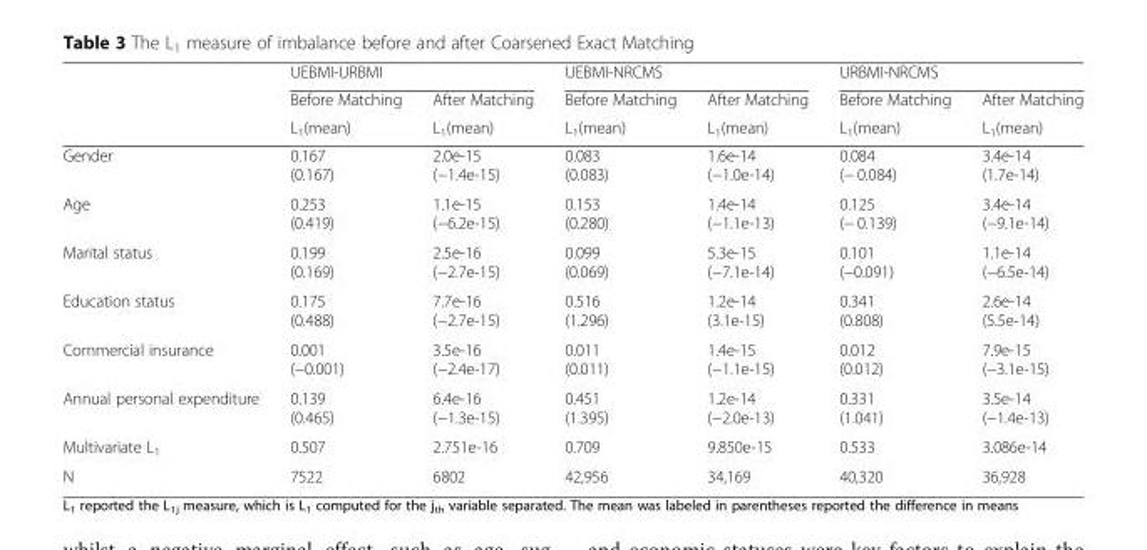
<table><thead><tr><td rowspan="3"></td><td colspan="2">UEBMI-URBMI</td><td colspan="2">UEBMI-NRCMS</td><td colspan="2">URBMI-NRCMS</td></tr><tr><td rowspan="2">Before Matching L<sub>1</sub>(mean)</td><td rowspan="2">After Matching L<sub>1</sub>(mean)</td><td rowspan="2">Before Matching L<sub>1</sub>(mean)</td><td rowspan="2">After Matching L<sub>1</sub>(mean)</td><td rowspan="2">Before Matching L<sub>1</sub>(mean)</td><td rowspan="2">After Matching L<sub>1</sub>(mean)</td></tr><tr></tr></thead><tbody><tr><td>Gender</td><td>0.167 (0.167)</td><td>2.0e-15 (−1.4e-15)</td><td>0.083 (0.083)</td><td>1.6e-14 (−1.0e-14)</td><td>0.084 (− 0.084)</td><td>3.4e-14 (1.7e-14)</td></tr><tr><td>Age</td><td>0.253 (0.419)</td><td>1.1e-15 (−6.2e-15)</td><td>0.153 (0.280)</td><td>1.4e-14 (−1.1e-13)</td><td>0.125 (− 0.139)</td><td>3.4e-14 (−9.1e-14)</td></tr><tr><td>Marital status</td><td>0.199 (0.169)</td><td>2.5e-16 (−2.7e-15)</td><td>0.099 (0.069)</td><td>5.3e-15 (−7.1e-14)</td><td>0.101 (−0.091)</td><td>1.1e-14 (−6.5e-14)</td></tr><tr><td>Education status</td><td>0.175 (0.488)</td><td>7.7e-16 (−2.7e-15)</td><td>0.516 (1.296)</td><td>1.2e-14 (3.1e-15)</td><td>0.341 (0.808)</td><td>2.6e-14 (5.5e-14)</td></tr><tr><td>Commercial insurance</td><td>0.001 (−0.001)</td><td>3.5e-16 (−2.4e-17)</td><td>0.011 (0.011)</td><td>1.4e-15 (−1.1e-15)</td><td>0.012 (0.012)</td><td>7.9e-15 (−3.1e-15)</td></tr><tr><td>Annual personal expenditure</td><td>0.139 (0.465)</td><td>6.4e-16 (−1.3e-15)</td><td>0.451 (1.395)</td><td>1.2e-14 (−2.0e-13)</td><td>0.331 (1.041)</td><td>3.5e-14 (−1.4e-13)</td></tr><tr><td>Multivariate L<sub>1</sub></td><td>0.507</td><td>2.751e-16</td><td>0.709</td><td>9.850e-15</td><td>0.533</td><td>3.086e-14</td></tr><tr><td>N</td><td>7522</td><td>6802</td><td>42,956</td><td>34,169</td><td>40,320</td><td>36,928</td></tr></tbody></table>